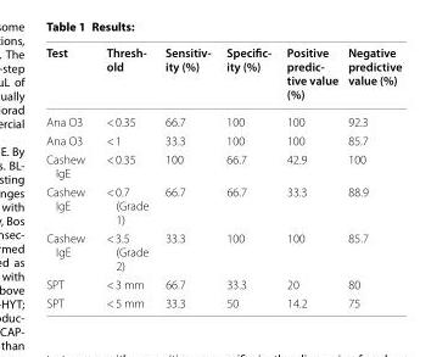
<table><thead><tr><td>Test</td><td>Thresh‑ old</td><td>Sensitiv‑ ity (%)</td><td>Specific‑ ity (%)</td><td>Positive predic‑ tive value (%)</td><td>Negative predictive value (%)</td></tr></thead><tbody><tr><td>Ana O3</td><td>&lt; 0.35</td><td>66.7</td><td>100</td><td>100</td><td>92.3</td></tr><tr><td>Ana O3</td><td>&lt; 1</td><td>33.3</td><td>100</td><td>100</td><td>85.7</td></tr><tr><td>Cashew IgE</td><td>&lt; 0.35</td><td>100</td><td>66.7</td><td>42.9</td><td>100</td></tr><tr><td>Cashew IgE</td><td>&lt; 0.7 (Grade 1)</td><td>66.7</td><td>66.7</td><td>33.3</td><td>88.9</td></tr><tr><td>Cashew IgE</td><td>&lt; 3.5 (Grade 2)</td><td>33.3</td><td>100</td><td>100</td><td>85.7</td></tr><tr><td>SPT</td><td>&lt; 3 mm</td><td>66.7</td><td>33.3</td><td>20</td><td>80</td></tr><tr><td>SPT</td><td>&lt; 5 mm</td><td>33.3</td><td>50</td><td>14.2</td><td>75</td></tr></tbody></table>